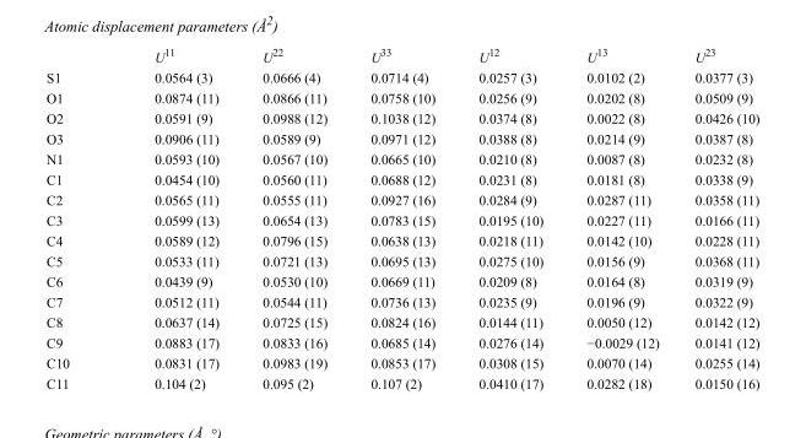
<table><thead><tr><td></td><td>U<sup>11</sup></td><td>U<sup>22</sup></td><td>U<sup>33</sup></td><td>U<sup>12</sup></td><td>U<sup>13</sup></td><td>U<sup>23</sup></td></tr></thead><tbody><tr><td>S1</td><td>0.0564 (3)</td><td>0.0666 (4)</td><td>0.0714 (4)</td><td>0.0257 (3)</td><td>0.0102 (2)</td><td>0.0377 (3)</td></tr><tr><td>O1</td><td>0.0874 (11)</td><td>0.0866 (11)</td><td>0.0758 (10)</td><td>0.0256 (9)</td><td>0.0202 (8)</td><td>0.0509 (9)</td></tr><tr><td>O2</td><td>0.0591 (9)</td><td>0.0988 (12)</td><td>0.1038 (12)</td><td>0.0374 (8)</td><td>0.0022 (8)</td><td>0.0426 (10)</td></tr><tr><td>O3</td><td>0.0906 (11)</td><td>0.0589 (9)</td><td>0.0971 (12)</td><td>0.0388 (8)</td><td>0.0214 (9)</td><td>0.0387 (8)</td></tr><tr><td>N1</td><td>0.0593 (10)</td><td>0.0567 (10)</td><td>0.0665 (10)</td><td>0.0210 (8)</td><td>0.0087 (8)</td><td>0.0232 (8)</td></tr><tr><td>C1</td><td>0.0454 (10)</td><td>0.0560 (11)</td><td>0.0688 (12)</td><td>0.0231 (8)</td><td>0.0181 (8)</td><td>0.0338 (9)</td></tr><tr><td>C2</td><td>0.0565 (11)</td><td>0.0555 (11)</td><td>0.0927 (16)</td><td>0.0284 (9)</td><td>0.0287 (11)</td><td>0.0358 (11)</td></tr><tr><td>C3</td><td>0.0599 (13)</td><td>0.0654 (13)</td><td>0.0783 (15)</td><td>0.0195 (10)</td><td>0.0227 (11)</td><td>0.0166 (11)</td></tr><tr><td>C4</td><td>0.0589 (12)</td><td>0.0796 (15)</td><td>0.0638 (13)</td><td>0.0218 (11)</td><td>0.0142 (10)</td><td>0.0228 (11)</td></tr><tr><td>C5</td><td>0.0533 (11)</td><td>0.0721 (13)</td><td>0.0695 (13)</td><td>0.0275 (10)</td><td>0.0156 (9)</td><td>0.0368 (11)</td></tr><tr><td>C6</td><td>0.0439 (9)</td><td>0.0530 (10)</td><td>0.0669 (11)</td><td>0.0209 (8)</td><td>0.0164 (8)</td><td>0.0319 (9)</td></tr><tr><td>C7</td><td>0.0512 (11)</td><td>0.0544 (11)</td><td>0.0736 (13)</td><td>0.0235 (9)</td><td>0.0196 (9)</td><td>0.0322 (9)</td></tr><tr><td>C8</td><td>0.0637 (14)</td><td>0.0725 (15)</td><td>0.0824 (16)</td><td>0.0144 (11)</td><td>0.0050 (12)</td><td>0.0142 (12)</td></tr><tr><td>C9</td><td>0.0883 (17)</td><td>0.0833 (16)</td><td>0.0685 (14)</td><td>0.0276 (14)</td><td>−0.0029 (12)</td><td>0.0141 (12)</td></tr><tr><td>C10</td><td>0.0831 (17)</td><td>0.0983 (19)</td><td>0.0853 (17)</td><td>0.0308 (15)</td><td>0.0070 (14)</td><td>0.0255 (14)</td></tr><tr><td>C11</td><td>0.104 (2)</td><td>0.095 (2)</td><td>0.107 (2)</td><td>0.0410 (17)</td><td>0.0282 (18)</td><td>0.0150 (16)</td></tr></tbody></table>